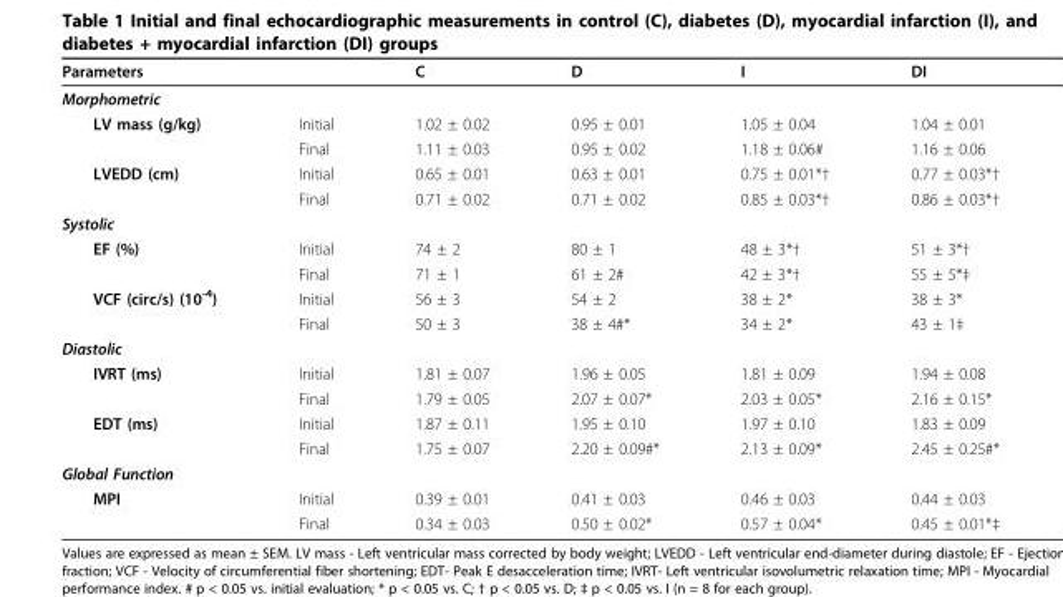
<table><thead><tr><td>Parameters</td><td></td><td>C</td><td>D</td><td>I</td><td>DI</td></tr></thead><tbody><tr><td colspan="6">Morphometric</td></tr><tr><td rowspan="2">LV mass (g/kg)</td><td>Initial</td><td>1.02 ± 0.02</td><td>0.95 ± 0.01</td><td>1.05 ± 0.04</td><td>1.04 ± 0.01</td></tr><tr><td>Final</td><td>1.11 ± 0.03</td><td>0.95 ± 0.02</td><td>1.18 ± 0.06#</td><td>1.16 ± 0.06</td></tr><tr><td rowspan="2">LVEDD (cm)</td><td>Initial</td><td>0.65 ± 0.01</td><td>0.63 ± 0.01</td><td>0.75 ± 0.01*†</td><td>0.77 ± 0.03*†</td></tr><tr><td>Final</td><td>0.71 ± 0.02</td><td>0.71 ± 0.02</td><td>0.85 ± 0.03*†</td><td>0.86 ± 0.03*†</td></tr><tr><td colspan="6">Systolic</td></tr><tr><td rowspan="2">EF (%)</td><td>Initial</td><td>74 ± 2</td><td>80 ± 1</td><td>48 ± 3*†</td><td>51 ± 3*†</td></tr><tr><td>Final</td><td>71 ± 1</td><td>61 ± 2#</td><td>42 ± 3*†</td><td>55 ± 5*‡</td></tr><tr><td rowspan="2">VCF (circ/s) (10<sup>-4</sup>)</td><td>Initial</td><td>56 ± 3</td><td>54 ± 2</td><td>38 ± 2*</td><td>38 ± 3*</td></tr><tr><td>Final</td><td>50 ± 3</td><td>38 ± 4#*</td><td>34 ± 2*</td><td>43 ± 1‡</td></tr><tr><td colspan="6">Diastolic</td></tr><tr><td rowspan="2">IVRT (ms)</td><td>Initial</td><td>1.81 ± 0.07</td><td>1.96 ± 0.05</td><td>1.81 ± 0.09</td><td>1.94 ± 0.08</td></tr><tr><td>Final</td><td>1.79 ± 0.05</td><td>2.07 ± 0.07*</td><td>2.03 ± 0.05*</td><td>2.16 ± 0.15*</td></tr><tr><td rowspan="2">EDT (ms)</td><td>Initial</td><td>1.87 ± 0.11</td><td>1.95 ± 0.10</td><td>1.97 ± 0.10</td><td>1.83 ± 0.09</td></tr><tr><td>Final</td><td>1.75 ± 0.07</td><td>2.20 ± 0.09#*</td><td>2.13 ± 0.09*</td><td>2.45 ± 0.25#*</td></tr><tr><td colspan="6">Global Function</td></tr><tr><td rowspan="2">MPI</td><td>Initial</td><td>0.39 ± 0.01</td><td>0.41 ± 0.03</td><td>0.46 ± 0.03</td><td>0.44 ± 0.03</td></tr><tr><td>Final</td><td>0.34 ± 0.03</td><td>0.50 ± 0.02*</td><td>0.57 ± 0.04*</td><td>0.45 ± 0.01*‡</td></tr></tbody></table>